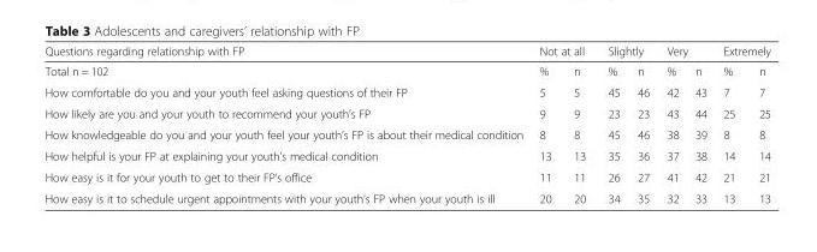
<table><thead><tr><td rowspan="2">Questions regarding relationship with FP Total n = 102</td><td colspan="2">Not at all</td><td colspan="2">Slightly</td><td colspan="2">Very</td><td colspan="2">Extremely</td></tr><tr><td>%</td><td>n</td><td>%</td><td>n</td><td>%</td><td>n</td><td>%</td><td>n</td></tr></thead><tbody><tr><td>How comfortable do you and your youth feel asking questions of their FP</td><td>5</td><td>5</td><td>45</td><td>46</td><td>42</td><td>43</td><td>7</td><td>7</td></tr><tr><td>How likely are you and your youth to recommend your youth’s FP</td><td>9</td><td>9</td><td>23</td><td>23</td><td>43</td><td>44</td><td>25</td><td>25</td></tr><tr><td>How knowledgeable do you and your youth feel your youth’s FP is about their medical condition</td><td>8</td><td>8</td><td>45</td><td>46</td><td>38</td><td>39</td><td>8</td><td>8</td></tr><tr><td>How helpful is your FP at explaining your youth’s medical condition</td><td>13</td><td>13</td><td>35</td><td>36</td><td>37</td><td>38</td><td>14</td><td>14</td></tr><tr><td>How easy is it for your youth to get to their FP’s office</td><td>11</td><td>11</td><td>26</td><td>27</td><td>41</td><td>42</td><td>21</td><td>21</td></tr><tr><td>How easy is it to schedule urgent appointments with your youth’s FP when your youth is ill</td><td>20</td><td>20</td><td>34</td><td>35</td><td>32</td><td>33</td><td>13</td><td>13</td></tr></tbody></table>